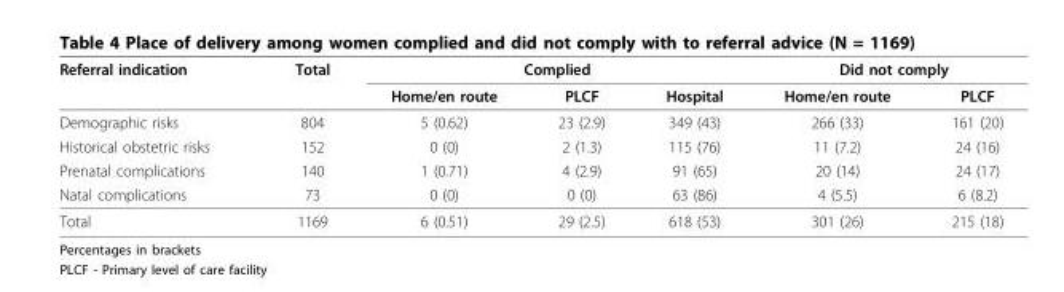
<table><thead><tr><td rowspan="2">Referral indication</td><td rowspan="2">Total</td><td colspan="3">Complied</td><td colspan="2">Did not comply</td></tr><tr><td>Home/en route</td><td>PLCF</td><td>Hospital</td><td>Home/en route</td><td>PLCF</td></tr></thead><tbody><tr><td>Demographic risks</td><td>804</td><td>5 (0.62)</td><td>23 (2.9)</td><td>349 (43)</td><td>266 (33)</td><td>161 (20)</td></tr><tr><td>Historical obstetric risks</td><td>152</td><td>0 (0)</td><td>2 (1.3)</td><td>115 (76)</td><td>11 (7.2)</td><td>24 (16)</td></tr><tr><td>Prenatal complications</td><td>140</td><td>1 (0.71)</td><td>4 (2.9)</td><td>91 (65)</td><td>20 (14)</td><td>24 (17)</td></tr><tr><td>Natal complications</td><td>73</td><td>0 (0)</td><td>0 (0)</td><td>63 (86)</td><td>4 (5.5)</td><td>6 (8.2)</td></tr><tr><td>Total</td><td>1169</td><td>6 (0.51)</td><td>29 (2.5)</td><td>618 (53)</td><td>301 (26)</td><td>215 (18)</td></tr></tbody></table>